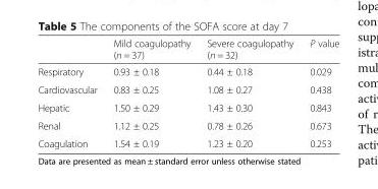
<table><thead><tr><td></td><td>Mild coagulopathy (n = 37)</td><td>Severe coagulopathy (n = 32)</td><td>P value</td></tr></thead><tbody><tr><td>Respiratory</td><td>0.93 ± 0.18</td><td>0.44 ± 0.18</td><td>0.029</td></tr><tr><td>Cardiovascular</td><td>0.83 ± 0.25</td><td>1.08 ± 0.27</td><td>0.438</td></tr><tr><td>Hepatic</td><td>1.50 ± 0.29</td><td>1.43 ± 0.30</td><td>0.843</td></tr><tr><td>Renal</td><td>1.12 ± 0.25</td><td>0.78 ± 0.26</td><td>0.673</td></tr><tr><td>Coagulation</td><td>1.54 ± 0.19</td><td>1.23 ± 0.20</td><td>0.253</td></tr></tbody></table>